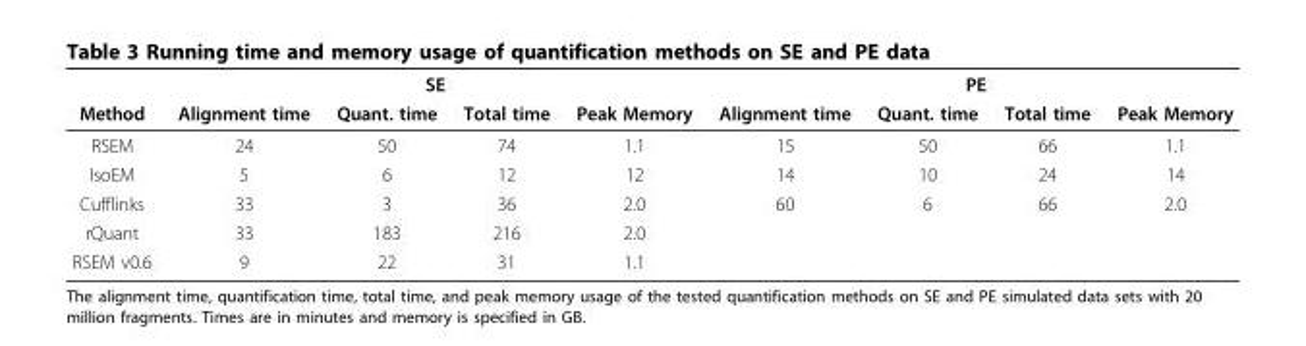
<table><thead><tr><td rowspan="2">Method</td><td colspan="4">SE</td><td colspan="4">PE</td></tr><tr><td>Alignment time</td><td>Quant. time</td><td>Total time</td><td>Peak Memory</td><td>Alignment time</td><td>Quant. time</td><td>Total time</td><td>Peak Memory</td></tr></thead><tbody><tr><td>RSEM</td><td>24</td><td>50</td><td>74</td><td>1.1</td><td>15</td><td>50</td><td>66</td><td>1.1</td></tr><tr><td>IsoEM</td><td>5</td><td>6</td><td>12</td><td>12</td><td>14</td><td>10</td><td>24</td><td>14</td></tr><tr><td>Cufflinks</td><td>33</td><td>3</td><td>36</td><td>2.0</td><td>60</td><td>6</td><td>66</td><td>2.0</td></tr><tr><td>rQuant</td><td>33</td><td>183</td><td>216</td><td>2.0</td><td></td><td></td><td></td><td></td></tr><tr><td>RSEM v0.6</td><td>9</td><td>22</td><td>31</td><td>1.1</td><td></td><td></td><td></td><td></td></tr></tbody></table>